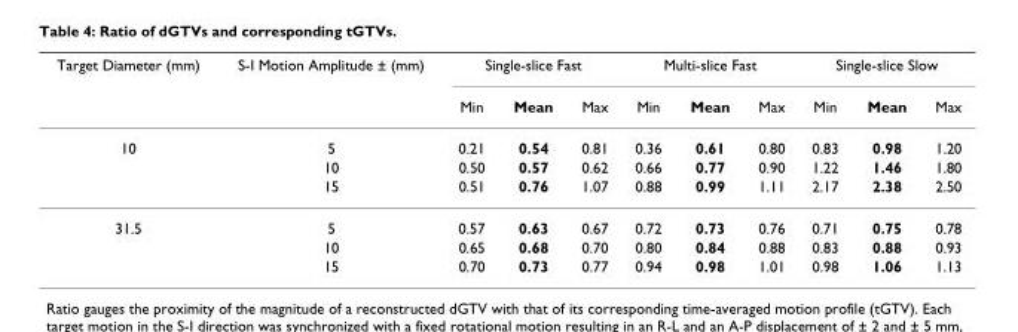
<table><thead><tr><td rowspan="2">Target Diameter (mm)</td><td rowspan="2">S-I Motion Amplitude ± (mm)</td><td colspan="3">Single-slice Fast</td><td colspan="3">Multi-slice Fast</td><td colspan="3">Single-slice Slow</td></tr><tr><td>Min</td><td>Mean</td><td>Max</td><td>Min</td><td>Mean</td><td>Max</td><td>Min</td><td>Mean</td><td>Max</td></tr></thead><tbody><tr><td rowspan="3">10</td><td>5</td><td>0.21</td><td>0.54</td><td>0.81</td><td>0.36</td><td>0.61</td><td>0.80</td><td>0.83</td><td>0.98</td><td>1.20</td></tr><tr><td>10</td><td>0.50</td><td>0.57</td><td>0.62</td><td>0.66</td><td>0.77</td><td>0.90</td><td>1.22</td><td>1.46</td><td>1.80</td></tr><tr><td>15</td><td>0.51</td><td>0.76</td><td>1.07</td><td>0.88</td><td>0.99</td><td>1.11</td><td>2.17</td><td>2.38</td><td>2.50</td></tr><tr><td rowspan="3">31.5</td><td>5</td><td>0.57</td><td>0.63</td><td>0.67</td><td>0.72</td><td>0.73</td><td>0.76</td><td>0.71</td><td>0.75</td><td>0.78</td></tr><tr><td>10</td><td>0.65</td><td>0.68</td><td>0.70</td><td>0.80</td><td>0.84</td><td>0.88</td><td>0.83</td><td>0.88</td><td>0.93</td></tr><tr><td>15</td><td>0.70</td><td>0.73</td><td>0.77</td><td>0.94</td><td>0.98</td><td>1.01</td><td>0.98</td><td>1.06</td><td>1.13</td></tr></tbody></table>